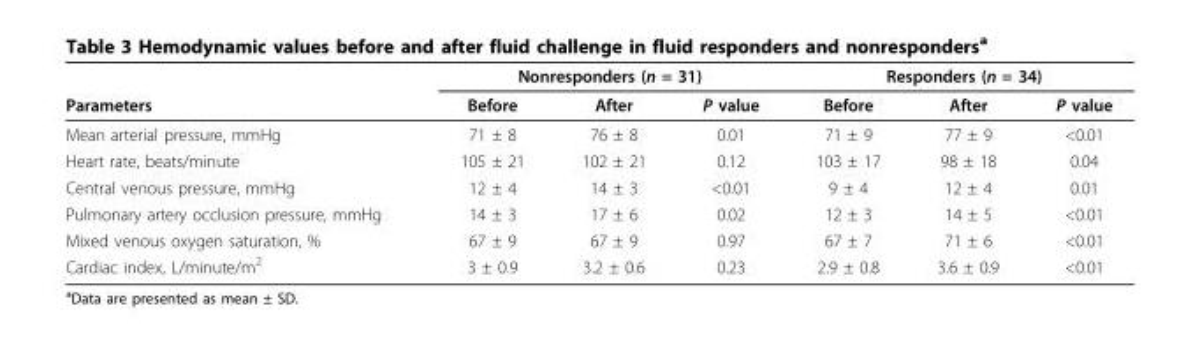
<table><thead><tr><td rowspan="2">Parameters</td><td colspan="3">Nonresponders (n = 31)</td><td colspan="3">Responders (n = 34)</td></tr><tr><td>Before</td><td>After</td><td>P value</td><td>Before</td><td>After</td><td>P value</td></tr></thead><tbody><tr><td>Mean arterial pressure, mmHg</td><td>71 ± 8</td><td>76 ± 8</td><td>0.01</td><td>71 ± 9</td><td>77 ± 9</td><td>&lt;0.01</td></tr><tr><td>Heart rate, beats/minute</td><td>105 ± 21</td><td>102 ± 21</td><td>0.12</td><td>103 ± 17</td><td>98 ± 18</td><td>0.04</td></tr><tr><td>Central venous pressure, mmHg</td><td>12 ± 4</td><td>14 ± 3</td><td>&lt;0.01</td><td>9 ± 4</td><td>12 ± 4</td><td>0.01</td></tr><tr><td>Pulmonary artery occlusion pressure, mmHg</td><td>14 ± 3</td><td>17 ± 6</td><td>0.02</td><td>12 ± 3</td><td>14 ± 5</td><td>&lt;0.01</td></tr><tr><td>Mixed venous oxygen saturation, %</td><td>67 ± 9</td><td>67 ± 9</td><td>0.97</td><td>67 ± 7</td><td>71 ± 6</td><td>&lt;0.01</td></tr><tr><td>Cardiac index, L/minute/m<sup>2</sup></td><td>3 ± 0.9</td><td>3.2 ± 0.6</td><td>0.23</td><td>2.9 ± 0.8</td><td>3.6 ± 0.9</td><td>&lt;0.01</td></tr></tbody></table>